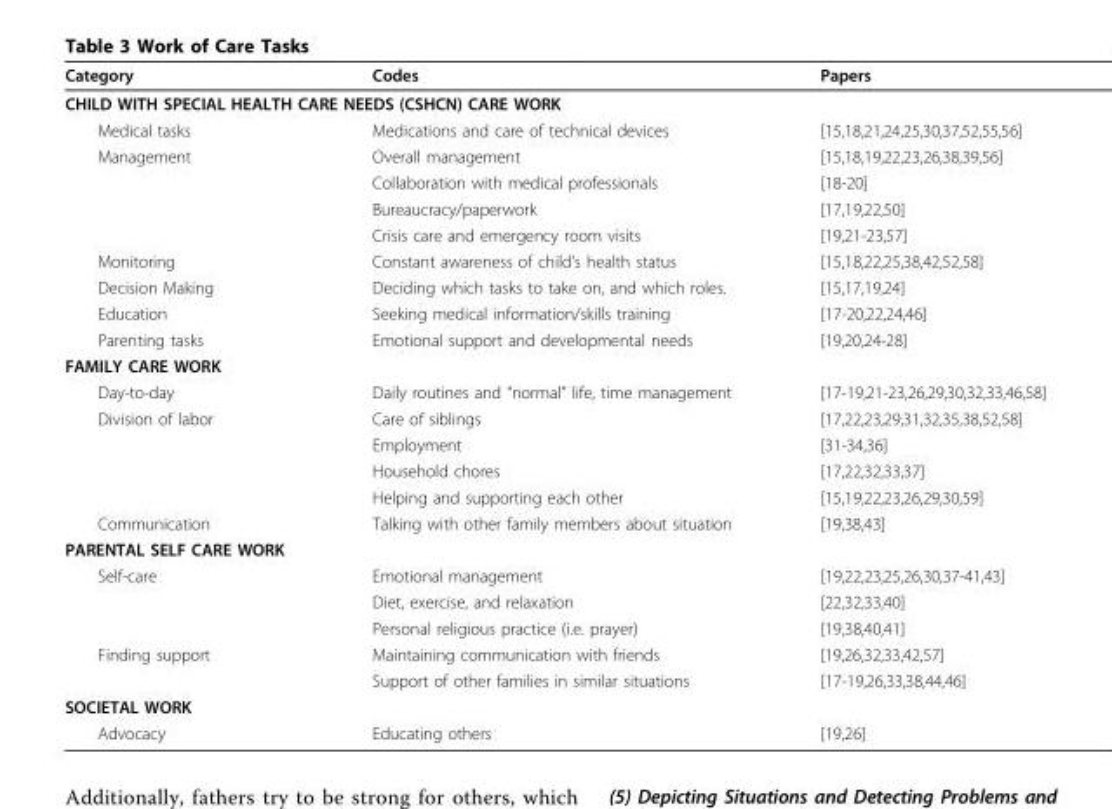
<table><thead><tr><td>Category</td><td>Codes</td><td>Papers</td></tr></thead><tbody><tr><td colspan="3">CHILD WITH SPECIAL HEALTH CARE NEEDS (CSHCN) CARE WORK</td></tr><tr><td>Medical tasks</td><td>Medications and care of technical devices</td><td>[15,18,21,24,25,30,37,52,55,56]</td></tr><tr><td rowspan="4">Management</td><td>Overall management</td><td>[15,18,19,22,23,26,38,39,56]</td></tr><tr><td>Collaboration with medical professionals</td><td>[18-20]</td></tr><tr><td>Bureaucracy/paperwork</td><td>[17,19,22,50]</td></tr><tr><td>Crisis care and emergency room visits</td><td>[19,21-23,57]</td></tr><tr><td>Monitoring</td><td>Constant awareness of child’s health status</td><td>[15,18,22,25,38,42,52,58]</td></tr><tr><td>Decision Making</td><td>Deciding which tasks to take on, and which roles.</td><td>[15,17,19,24]</td></tr><tr><td>Education</td><td>Seeking medical information/skills training</td><td>[17-20,22,24,46]</td></tr><tr><td>Parenting tasks</td><td>Emotional support and developmental needs</td><td>[19,20,24-28]</td></tr><tr><td colspan="3">FAMILY CARE WORK</td></tr><tr><td>Day-to-day</td><td>Daily routines and “normal” life, time management</td><td>[17-19,21-23,26,29,30,32,33,46,58]</td></tr><tr><td rowspan="4">Division of labor</td><td>Care of siblings</td><td>[17,22,23,29,31,32,35,38,52,58]</td></tr><tr><td>Employment</td><td>[31-34,36]</td></tr><tr><td>Household chores</td><td>[17,22,32,33,37]</td></tr><tr><td>Helping and supporting each other</td><td>[15,19,22,23,26,29,30,59]</td></tr><tr><td>Communication</td><td>Talking with other family members about situation</td><td>[19,38,43]</td></tr><tr><td colspan="3">PARENTAL SELF CARE WORK</td></tr><tr><td rowspan="3">Self-care</td><td>Emotional management</td><td>[19,22,23,25,26,30,37-41,43]</td></tr><tr><td>Diet, exercise, and relaxation</td><td>[22,32,33,40]</td></tr><tr><td>Personal religious practice (i.e. prayer)</td><td>[19,38,40,41]</td></tr><tr><td rowspan="2">Finding support</td><td>Maintaining communication with friends</td><td>[19,26,32,33,42,57]</td></tr><tr><td>Support of other families in similar situations</td><td>[17-19,26,33,38,44,46]</td></tr><tr><td colspan="3">SOCIETAL WORK</td></tr><tr><td>Advocacy</td><td>Educating others</td><td>[19,26]</td></tr></tbody></table>